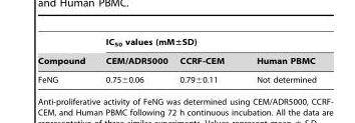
<table><thead><tr><td rowspan="2">Compound</td><td colspan="3">IC<sub>50</sub> values (mM±SD)</td></tr><tr><td>CEM/ADR5000</td><td>CCRF-CEM</td><td>Human PBMC</td></tr></thead><tbody><tr><td>FeNG</td><td>0.75±0.06</td><td>0.79±0.11</td><td>Not determined</td></tr></tbody></table>